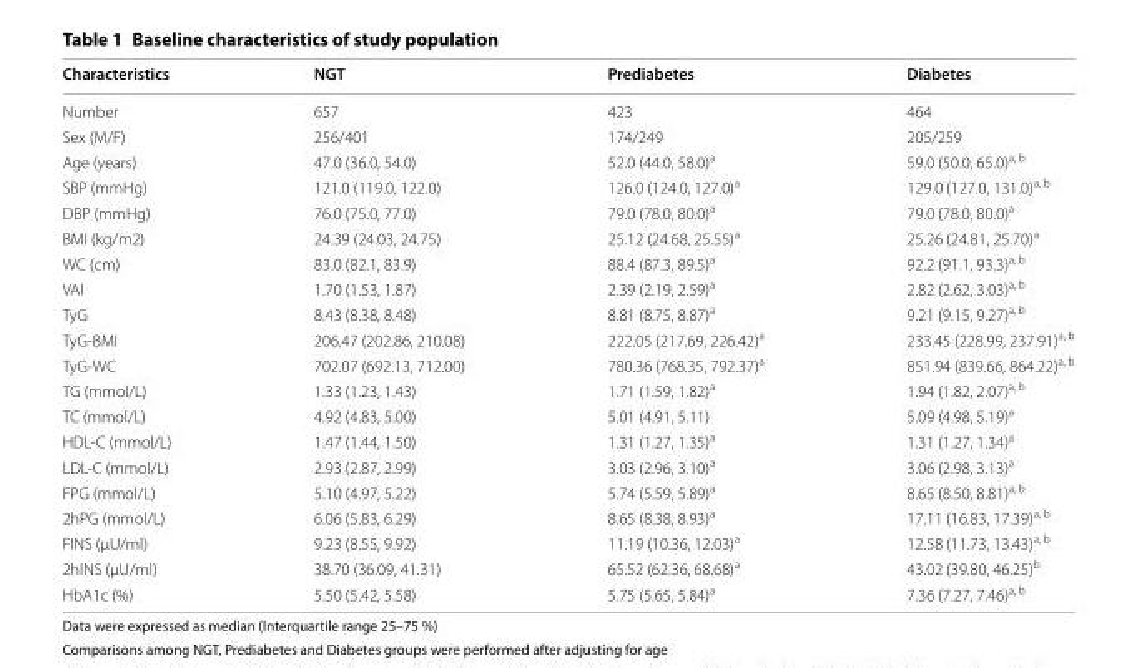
<table><thead><tr><td>Characteristics</td><td>NGT</td><td>Prediabetes</td><td>Diabetes</td></tr></thead><tbody><tr><td>Number</td><td>657</td><td>423</td><td>464</td></tr><tr><td>Sex (M/F)</td><td>256/401</td><td>174/249</td><td>205/259</td></tr><tr><td>Age (years)</td><td>47.0 (36.0, 54.0)</td><td>52.0 (44.0, 58.0)<sup>a</sup></td><td>59.0 (50.0, 65.0)<sup>a, b</sup></td></tr><tr><td>SBP (mmHg)</td><td>121.0 (119.0, 122.0)</td><td>126.0 (124.0, 127.0)<sup>a</sup></td><td>129.0 (127.0, 131.0)<sup>a, b</sup></td></tr><tr><td>DBP (mmHg)</td><td>76.0 (75.0, 77.0)</td><td>79.0 (78.0, 80.0)<sup>a</sup></td><td>79.0 (78.0, 80.0)<sup>a</sup></td></tr><tr><td>BMI (kg/m2)</td><td>24.39 (24.03, 24.75)</td><td>25.12 (24.68, 25.55)<sup>a</sup></td><td>25.26 (24.81, 25.70)<sup>a</sup></td></tr><tr><td>WC (cm)</td><td>83.0 (82.1, 83.9)</td><td>88.4 (87.3, 89.5)<sup>a</sup></td><td>92.2 (91.1, 93.3)<sup>a, b</sup></td></tr><tr><td>VAI</td><td>1.70 (1.53, 1.87)</td><td>2.39 (2.19, 2.59)<sup>a</sup></td><td>2.82 (2.62, 3.03)<sup>a, b</sup></td></tr><tr><td>TyG</td><td>8.43 (8.38, 8.48)</td><td>8.81 (8.75, 8.87)<sup>a</sup></td><td>9.21 (9.15, 9.27)<sup>a, b</sup></td></tr><tr><td>TyG-BMI</td><td>206.47 (202.86, 210.08)</td><td>222.05 (217.69, 226.42)<sup>a</sup></td><td>233.45 (228.99, 237.91)<sup>a, b</sup></td></tr><tr><td>TyG-WC</td><td>702.07 (692.13, 712.00)</td><td>780.36 (768.35, 792.37)<sup>a</sup></td><td>851.94 (839.66, 864.22)<sup>a, b</sup></td></tr><tr><td>TG (mmol/L)</td><td>1.33 (1.23, 1.43)</td><td>1.71 (1.59, 1.82)<sup>a</sup></td><td>1.94 (1.82, 2.07)<sup>a, b</sup></td></tr><tr><td>TC (mmol/L)</td><td>4.92 (4.83, 5.00)</td><td>5.01 (4.91, 5.11)</td><td>5.09 (4.98, 5.19)<sup>a</sup></td></tr><tr><td>HDL-C (mmol/L)</td><td>1.47 (1.44, 1.50)</td><td>1.31 (1.27, 1.35)<sup>a</sup></td><td>1.31 (1.27, 1.34)<sup>a</sup></td></tr><tr><td>LDL-C (mmol/L)</td><td>2.93 (2.87, 2.99)</td><td>3.03 (2.96, 3.10)<sup>a</sup></td><td>3.06 (2.98, 3.13)<sup>a</sup></td></tr><tr><td>FPG (mmol/L)</td><td>5.10 (4.97, 5.22)</td><td>5.74 (5.59, 5.89)<sup>a</sup></td><td>8.65 (8.50, 8.81)<sup>a, b</sup></td></tr><tr><td>2hPG (mmol/L)</td><td>6.06 (5.83, 6.29)</td><td>8.65 (8.38, 8.93)<sup>a</sup></td><td>17.11 (16.83, 17.39)<sup>a, b</sup></td></tr><tr><td>FINS (μU/ml)</td><td>9.23 (8.55, 9.92)</td><td>11.19 (10.36, 12.03)<sup>a</sup></td><td>12.58 (11.73, 13.43)<sup>a, b</sup></td></tr><tr><td>2hINS (μU/ml)</td><td>38.70 (36.09, 41.31)</td><td>65.52 (62.36, 68.68)<sup>a</sup></td><td>43.02 (39.80, 46.25)<sup>b</sup></td></tr><tr><td>HbA1c (%)</td><td>5.50 (5.42, 5.58)</td><td>5.75 (5.65, 5.84)<sup>a</sup></td><td>7.36 (7.27, 7.46)<sup>a, b</sup></td></tr></tbody></table>